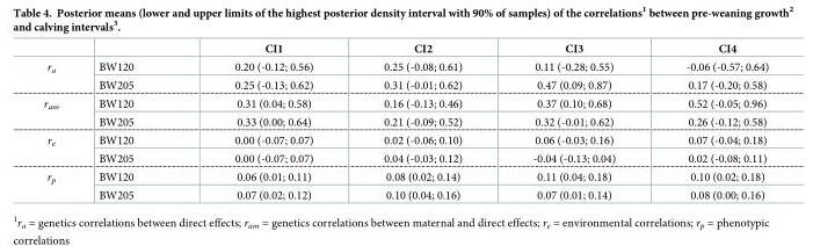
<table><thead><tr><td></td><td></td><td>CI1</td><td>CI2</td><td>CI3</td><td>CI4</td></tr></thead><tbody><tr><td rowspan="2">r<sub>a</sub></td><td>BW120</td><td>0.20 (-0.12; 0.56)</td><td>0.25 (-0.08; 0.61)</td><td>0.11 (-0.28; 0.55)</td><td>-0.06 (-0.57; 0.64)</td></tr><tr><td>BW205</td><td>0.25 (-0.13; 0.62)</td><td>0.31 (-0.01; 0.62)</td><td>0.47 (0.09; 0.87)</td><td>0.17 (-0.20; 0.58)</td></tr><tr><td rowspan="2">r<sub>am</sub></td><td>BW120</td><td>0.31 (0.04; 0.58)</td><td>0.16 (-0.13; 0.46)</td><td>0.37 (0.10; 0.68)</td><td>0.52 (-0.05; 0.96)</td></tr><tr><td>BW205</td><td>0.33 (0.00; 0.64)</td><td>0.21 (-0.09; 0.52)</td><td>0.32 (-0.01; 0.62)</td><td>0.26 (-0.12; 0.58)</td></tr><tr><td rowspan="2">r<sub>e</sub></td><td>BW120</td><td>0.00 (-0.07; 0.07)</td><td>0.02 (-0.06; 0.10)</td><td>0.06 (-0.03; 0.16)</td><td>0.07 (-0.04; 0.18)</td></tr><tr><td>BW205</td><td>0.00 (-0.07; 0.07)</td><td>0.04 (-0.03; 0.12)</td><td>-0.04 (-0.13; 0.04)</td><td>0.02 (-0.08; 0.11)</td></tr><tr><td rowspan="2">r<sub>p</sub></td><td>BW120</td><td>0.06 (0.01; 0.11)</td><td>0.08 (0.02; 0.14)</td><td>0.11 (0.04; 0.18)</td><td>0.10 (0.02; 0.18)</td></tr><tr><td>BW205</td><td>0.07 (0.02; 0.12)</td><td>0.10 (0.04; 0.16)</td><td>0.07 (0.01; 0.14)</td><td>0.08 (0.00; 0.16)</td></tr></tbody></table>